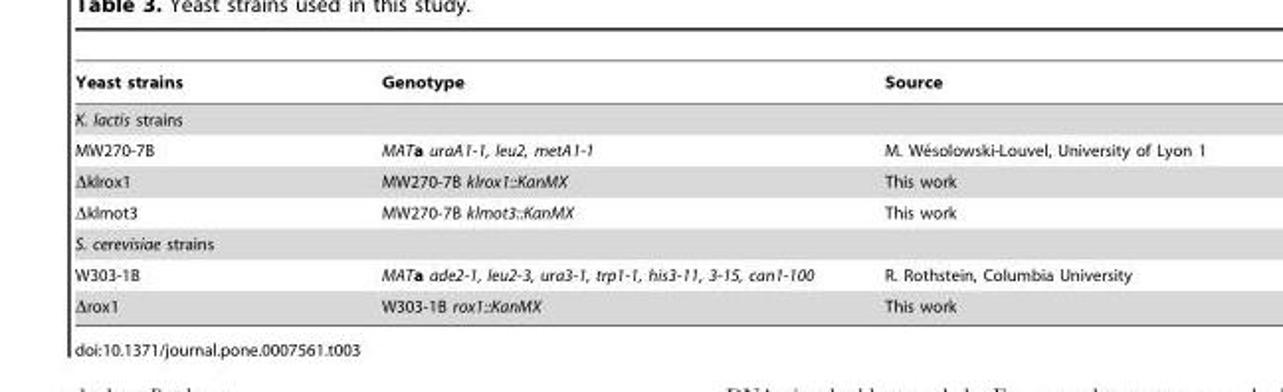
<table><thead><tr><td>Yeast strains</td><td>Genotype</td><td>Source</td></tr></thead><tbody><tr><td colspan="3">K. lactis strains</td></tr><tr><td>MW270-7B</td><td>MATa uraA1-1, leu2, metA1-1</td><td>M. We´solowski-Louvel, University of Lyon 1</td></tr><tr><td>Δklrox1</td><td>MW270-7B klrox1::KanMX</td><td>This work</td></tr><tr><td>Δklmot3</td><td>MW270-7B klmot3::KanMX</td><td>This work</td></tr><tr><td colspan="3">S. cerevisiae strains</td></tr><tr><td>W303-1B</td><td>MATa ade2-1, leu2-3, ura3-1, trp1-1, his3-11, 3-15, can1-100</td><td>R. Rothstein, Columbia University</td></tr><tr><td>Δrox1</td><td>W303-1B rox1::KanMX</td><td>This work</td></tr></tbody></table>